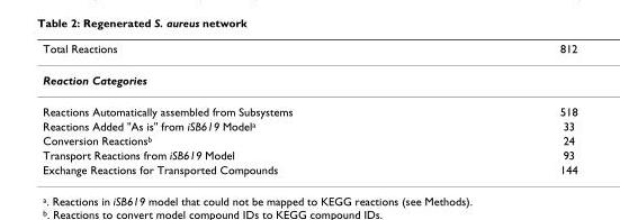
<table><thead><tr><td>Total Reactions</td><td>812</td></tr></thead><tbody><tr><td colspan="2">Reaction Categories</td></tr><tr><td>Reactions Automatically assembled from Subsystems</td><td>518</td></tr><tr><td>Reactions Added &quot;As is&quot; from iSB619 Model<sup>a</sup></td><td>33</td></tr><tr><td>Conversion Reactions<sup>b</sup></td><td>24</td></tr><tr><td>Transport Reactions from iSB619 Model</td><td>93</td></tr><tr><td>Exchange Reactions for Transported Compounds</td><td>144</td></tr></tbody></table>